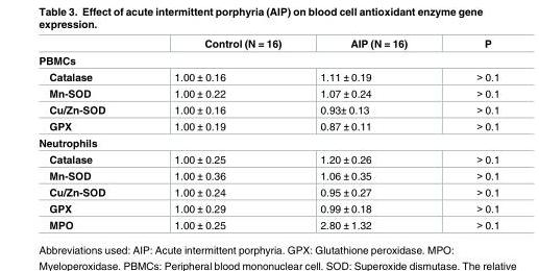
<table><thead><tr><td></td><td>Control (N = 16)</td><td>AIP (N = 16)</td><td>P</td></tr></thead><tbody><tr><td colspan="4">PBMCs</td></tr><tr><td>Catalase</td><td>1.00 ± 0.16</td><td>1.11 ± 0.19</td><td>&gt; 0.1</td></tr><tr><td>Mn-SOD</td><td>1.00 ± 0.22</td><td>1.07 ± 0.24</td><td>&gt; 0.1</td></tr><tr><td>Cu/Zn-SOD</td><td>1.00 ± 0.16</td><td>0.93± 0.13</td><td>&gt; 0.1</td></tr><tr><td>GPX</td><td>1.00 ± 0.19</td><td>0.87 ± 0.11</td><td>&gt; 0.1</td></tr><tr><td colspan="4">Neutrophils</td></tr><tr><td>Catalase</td><td>1.00 ± 0.25</td><td>1.20 ± 0.26</td><td>&gt; 0.1</td></tr><tr><td>Mn-SOD</td><td>1.00 ± 0.36</td><td>1.06 ± 0.35</td><td>&gt; 0.1</td></tr><tr><td>Cu/Zn-SOD</td><td>1.00 ± 0.24</td><td>0.95 ± 0.27</td><td>&gt; 0.1</td></tr><tr><td>GPX</td><td>1.00 ± 0.29</td><td>0.99 ± 0.18</td><td>&gt; 0.1</td></tr><tr><td>MPO</td><td>1.00 ± 0.25</td><td>2.80 ± 1.32</td><td>&gt; 0.1</td></tr></tbody></table>